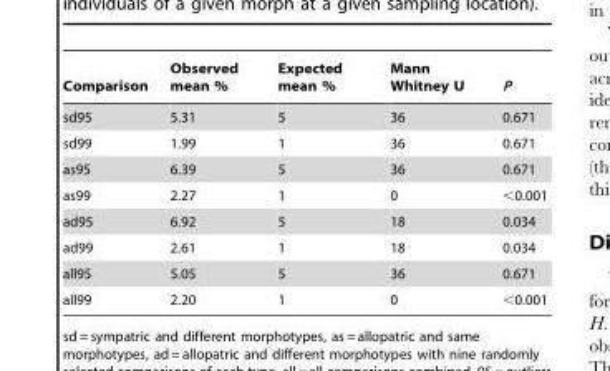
<table><thead><tr><td>Comparison</td><td>Observed mean %</td><td>Expected mean %</td><td>Mann Whitney U</td><td>P</td></tr></thead><tbody><tr><td>sd95</td><td>5.31</td><td>5</td><td>36</td><td>0.671</td></tr><tr><td>sd99</td><td>1.99</td><td>1</td><td>36</td><td>0.671</td></tr><tr><td>as95</td><td>6.39</td><td>5</td><td>36</td><td>0.671</td></tr><tr><td>as99</td><td>2.27</td><td>1</td><td>0</td><td>&lt;0.001</td></tr><tr><td>ad95</td><td>6.92</td><td>5</td><td>18</td><td>0.034</td></tr><tr><td>ad99</td><td>2.61</td><td>1</td><td>18</td><td>0.034</td></tr><tr><td>all95</td><td>5.05</td><td>5</td><td>36</td><td>0.671</td></tr><tr><td>all99</td><td>2.20</td><td>1</td><td>0</td><td>&lt;0.001</td></tr></tbody></table>